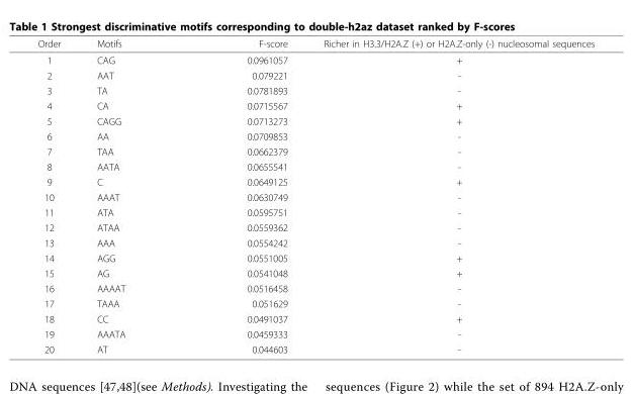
<table><thead><tr><td>Order</td><td>Motifs</td><td>F-score</td><td>Richer in H3.3/H2A.Z (+) or H2A.Z-only (-) nucleosomal sequences</td></tr></thead><tbody><tr><td>1</td><td>CAG</td><td>0.0961057</td><td>+</td></tr><tr><td>2</td><td>AAT</td><td>0.079221</td><td>-</td></tr><tr><td>3</td><td>TA</td><td>0.0781893</td><td>-</td></tr><tr><td>4</td><td>CA</td><td>0.0715567</td><td>+</td></tr><tr><td>5</td><td>CAGG</td><td>0.0713273</td><td>+</td></tr><tr><td>6</td><td>AA</td><td>0.0709853</td><td>-</td></tr><tr><td>7</td><td>TAA</td><td>0.0662379</td><td>-</td></tr><tr><td>8</td><td>AATA</td><td>0.0655541</td><td>-</td></tr><tr><td>9</td><td>C</td><td>0.0649125</td><td>+</td></tr><tr><td>10</td><td>AAAT</td><td>0.0630749</td><td>-</td></tr><tr><td>11</td><td>ATA</td><td>0.0595751</td><td>-</td></tr><tr><td>12</td><td>ATAA</td><td>0.0559362</td><td>-</td></tr><tr><td>13</td><td>AAA</td><td>0.0554242</td><td>-</td></tr><tr><td>14</td><td>AGG</td><td>0.0551005</td><td>+</td></tr><tr><td>15</td><td>AG</td><td>0.0541048</td><td>+</td></tr><tr><td>16</td><td>AAAAT</td><td>0.0516458</td><td>-</td></tr><tr><td>17</td><td>TAAA</td><td>0.051629</td><td>-</td></tr><tr><td>18</td><td>CC</td><td>0.0491037</td><td>+</td></tr><tr><td>19</td><td>AAATA</td><td>0.0459333</td><td>-</td></tr><tr><td>20</td><td>AT</td><td>0.044603</td><td>-</td></tr></tbody></table>